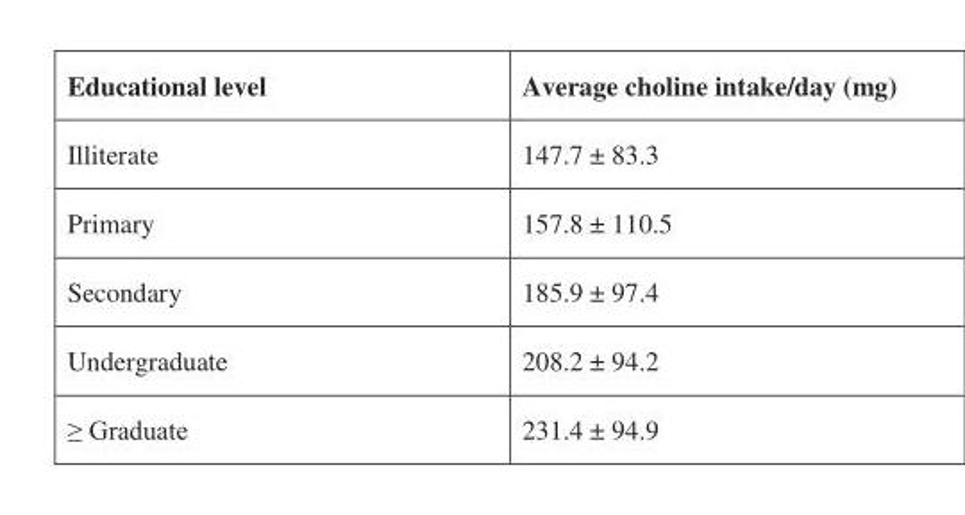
<table><thead><tr><td>Educational level</td><td>Average choline intake/day (mg)</td></tr></thead><tbody><tr><td>Illiterate</td><td>147.7 ± 83.3</td></tr><tr><td>Primary</td><td>157.8 ± 110.5</td></tr><tr><td>Secondary</td><td>185.9 ± 97.4</td></tr><tr><td>Undergraduate</td><td>208.2 ± 94.2</td></tr><tr><td>≥ Graduate</td><td>231.4 ± 94.9</td></tr></tbody></table>